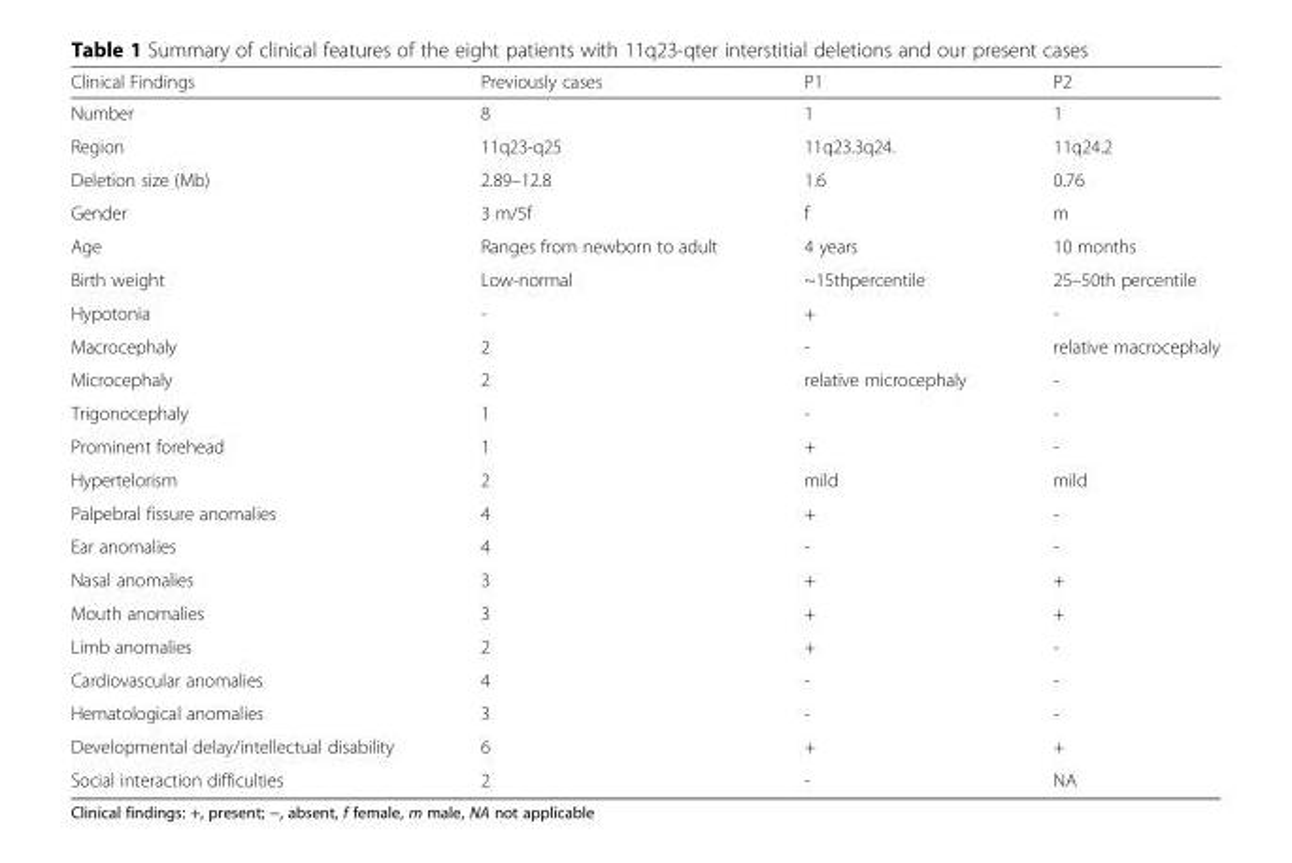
<table><thead><tr><td>Clinical Findings</td><td>Previously cases</td><td>P1</td><td>P2</td></tr></thead><tbody><tr><td>Number</td><td>8</td><td>1</td><td>1</td></tr><tr><td>Region</td><td>11q23-q25</td><td>11q23.3q24.</td><td>11q24.2</td></tr><tr><td>Deletion size (Mb)</td><td>2.89–12.8</td><td>1.6</td><td>0.76</td></tr><tr><td>Gender</td><td>3 m/5f</td><td>f</td><td>m</td></tr><tr><td>Age</td><td>Ranges from newborn to adult</td><td>4 years</td><td>10 months</td></tr><tr><td>Birth weight</td><td>Low-normal</td><td>~15thpercentile</td><td>25–50th percentile</td></tr><tr><td>Hypotonia</td><td>-</td><td>+</td><td>-</td></tr><tr><td>Macrocephaly</td><td>2</td><td>-</td><td>relative macrocephaly</td></tr><tr><td>Microcephaly</td><td>2</td><td>relative microcephaly</td><td>-</td></tr><tr><td>Trigonocephaly</td><td>1</td><td>-</td><td>-</td></tr><tr><td>Prominent forehead</td><td>1</td><td>+</td><td>-</td></tr><tr><td>Hypertelorism</td><td>2</td><td>mild</td><td>mild</td></tr><tr><td>Palpebral fissure anomalies</td><td>4</td><td>+</td><td>-</td></tr><tr><td>Ear anomalies</td><td>4</td><td>-</td><td>-</td></tr><tr><td>Nasal anomalies</td><td>3</td><td>+</td><td>+</td></tr><tr><td>Mouth anomalies</td><td>3</td><td>+</td><td>+</td></tr><tr><td>Limb anomalies</td><td>2</td><td>+</td><td>-</td></tr><tr><td>Cardiovascular anomalies</td><td>4</td><td>-</td><td>-</td></tr><tr><td>Hematological anomalies</td><td>3</td><td>-</td><td>-</td></tr><tr><td>Developmental delay/intellectual disability</td><td>6</td><td>+</td><td>+</td></tr><tr><td>Social interaction difficulties</td><td>2</td><td>-</td><td>NA</td></tr></tbody></table>